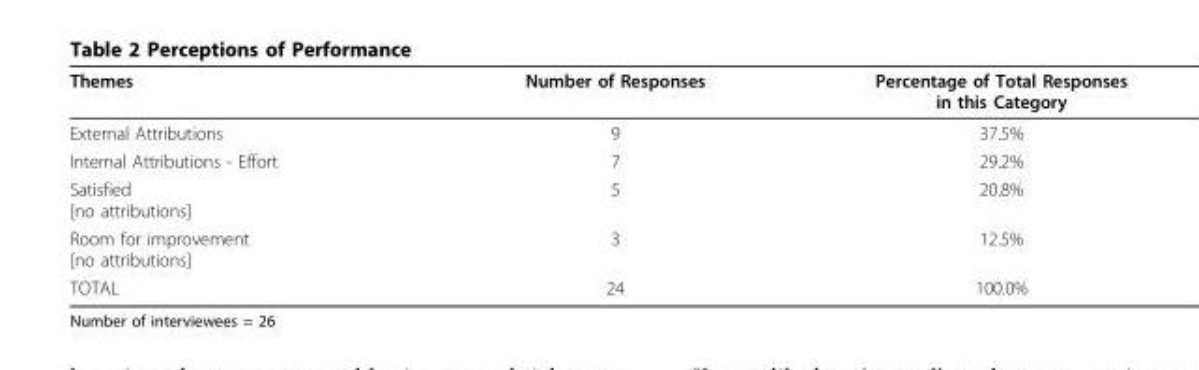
<table><thead><tr><td>Themes</td><td>Number of Responses</td><td>Percentage of Total Responses in this Category</td></tr></thead><tbody><tr><td>External Attributions</td><td>9</td><td>37.5%</td></tr><tr><td>Internal Attributions - Effort</td><td>7</td><td>29.2%</td></tr><tr><td>Satisfied [no attributions]</td><td>5</td><td>20.8%</td></tr><tr><td>Room for improvement [no attributions]</td><td>3</td><td>12.5%</td></tr><tr><td>TOTAL</td><td>24</td><td>100.0%</td></tr></tbody></table>